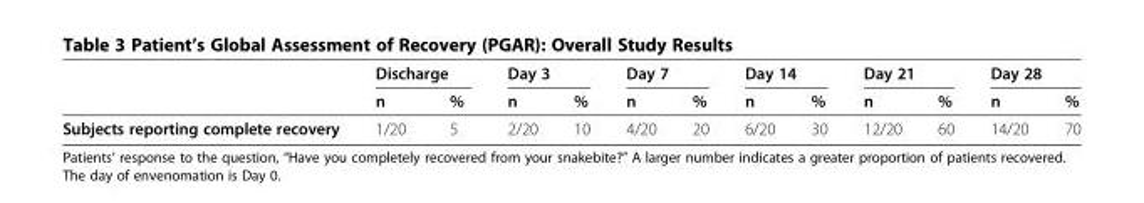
<table><thead><tr><td rowspan="2"></td><td colspan="2">Discharge</td><td colspan="2">Day 3</td><td colspan="2">Day 7</td><td colspan="2">Day 14</td><td colspan="2">Day 21</td><td colspan="2">Day 28</td></tr><tr><td>n</td><td>%</td><td>n</td><td>%</td><td>n</td><td>%</td><td>n</td><td>%</td><td>n</td><td>%</td><td>n</td><td>%</td></tr></thead><tbody><tr><td>Subjects reporting complete recovery</td><td>1/20</td><td>5</td><td>2/20</td><td>10</td><td>4/20</td><td>20</td><td>6/20</td><td>30</td><td>12/20</td><td>60</td><td>14/20</td><td>70</td></tr></tbody></table>